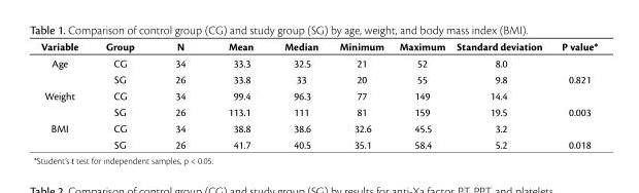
<table><thead><tr><td>Variable</td><td>Group</td><td>N</td><td>Mean</td><td>Median</td><td>Minimum</td><td>Maximum</td><td>Standard deviation</td><td>P value*</td></tr></thead><tbody><tr><td rowspan="2">Age</td><td>CG</td><td>34</td><td>33.3</td><td>32.5</td><td>21</td><td>52</td><td>8.0</td><td></td></tr><tr><td>SG</td><td>26</td><td>33.8</td><td>33</td><td>20</td><td>55</td><td>9.8</td><td>0.821</td></tr><tr><td rowspan="2">Weight</td><td>CG</td><td>34</td><td>99.4</td><td>96.3</td><td>77</td><td>149</td><td>14.4</td><td></td></tr><tr><td>SG</td><td>26</td><td>113.1</td><td>111</td><td>81</td><td>159</td><td>19.5</td><td>0.003</td></tr><tr><td rowspan="2">BMI</td><td>CG</td><td>34</td><td>38.8</td><td>38.6</td><td>32.6</td><td>45.5</td><td>3.2</td><td></td></tr><tr><td>SG</td><td>26</td><td>41.7</td><td>40.5</td><td>35.1</td><td>58.4</td><td>5.2</td><td>0.018</td></tr></tbody></table>